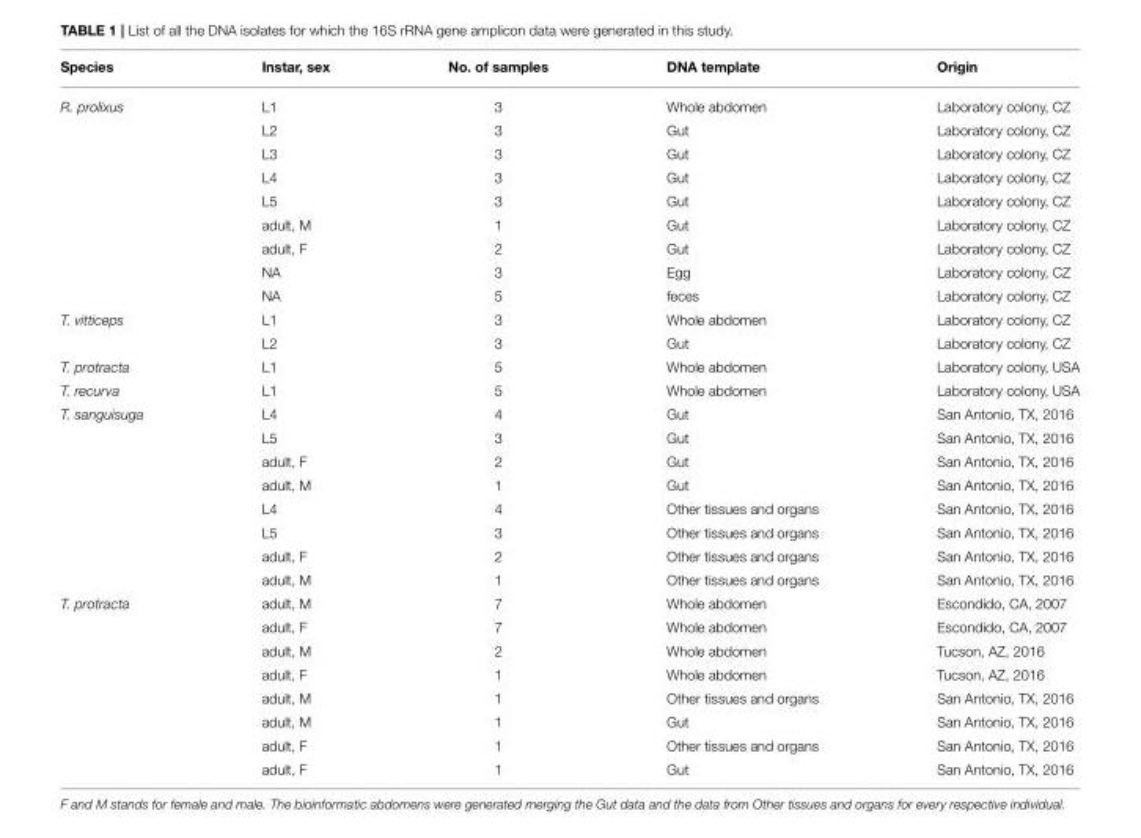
<table><thead><tr><td>Species</td><td>Instar, sex</td><td>No. of samples</td><td>DNA template</td><td>Origin</td></tr></thead><tbody><tr><td rowspan="9">R. prolixus</td><td>L1</td><td>3</td><td>Whole abdomen</td><td>Laboratory colony, CZ</td></tr><tr><td>L2</td><td>3</td><td>Gut</td><td>Laboratory colony, CZ</td></tr><tr><td>L3</td><td>3</td><td>Gut</td><td>Laboratory colony, CZ</td></tr><tr><td>L4</td><td>3</td><td>Gut</td><td>Laboratory colony, CZ</td></tr><tr><td>L5</td><td>3</td><td>Gut</td><td>Laboratory colony, CZ</td></tr><tr><td>adult, M</td><td>1</td><td>Gut</td><td>Laboratory colony, CZ</td></tr><tr><td>adult, F</td><td>2</td><td>Gut</td><td>Laboratory colony, CZ</td></tr><tr><td>NA</td><td>3</td><td>Egg</td><td>Laboratory colony, CZ</td></tr><tr><td>NA</td><td>5</td><td>feces</td><td>Laboratory colony, CZ</td></tr><tr><td rowspan="2">T. vitticeps</td><td>L1</td><td>3</td><td>Whole abdomen</td><td>Laboratory colony, CZ</td></tr><tr><td>L2</td><td>3</td><td>Gut</td><td>Laboratory colony, CZ</td></tr><tr><td>T. protracta</td><td>L1</td><td>5</td><td>Whole abdomen</td><td>Laboratory colony, USA</td></tr><tr><td>T. recurva</td><td>L1</td><td>5</td><td>Whole abdomen</td><td>Laboratory colony, USA</td></tr><tr><td rowspan="8">T. sanguisuga</td><td>L4</td><td>4</td><td>Gut</td><td>San Antonio, TX, 2016</td></tr><tr><td>L5</td><td>3</td><td>Gut</td><td>San Antonio, TX, 2016</td></tr><tr><td>adult, F</td><td>2</td><td>Gut</td><td>San Antonio, TX, 2016</td></tr><tr><td>adult, M</td><td>1</td><td>Gut</td><td>San Antonio, TX, 2016</td></tr><tr><td>L4</td><td>4</td><td>Other tissues and organs</td><td>San Antonio, TX, 2016</td></tr><tr><td>L5</td><td>3</td><td>Other tissues and organs</td><td>San Antonio, TX, 2016</td></tr><tr><td>adult, F</td><td>2</td><td>Other tissues and organs</td><td>San Antonio, TX, 2016</td></tr><tr><td>adult, M</td><td>1</td><td>Other tissues and organs</td><td>San Antonio, TX, 2016</td></tr><tr><td rowspan="8">T. protracta</td><td>adult, M</td><td>7</td><td>Whole abdomen</td><td>Escondido, CA, 2007</td></tr><tr><td>adult, F</td><td>7</td><td>Whole abdomen</td><td>Escondido, CA, 2007</td></tr><tr><td>adult, M</td><td>2</td><td>Whole abdomen</td><td>Tucson, AZ, 2016</td></tr><tr><td>adult, F</td><td>1</td><td>Whole abdomen</td><td>Tucson, AZ, 2016</td></tr><tr><td>adult, M</td><td>1</td><td>Other tissues and organs</td><td>San Antonio, TX, 2016</td></tr><tr><td>adult, M</td><td>1</td><td>Gut</td><td>San Antonio, TX, 2016</td></tr><tr><td>adult, F</td><td>1</td><td>Other tissues and organs</td><td>San Antonio, TX, 2016</td></tr><tr><td>adult, F</td><td>1</td><td>Gut</td><td>San Antonio, TX, 2016</td></tr></tbody></table>